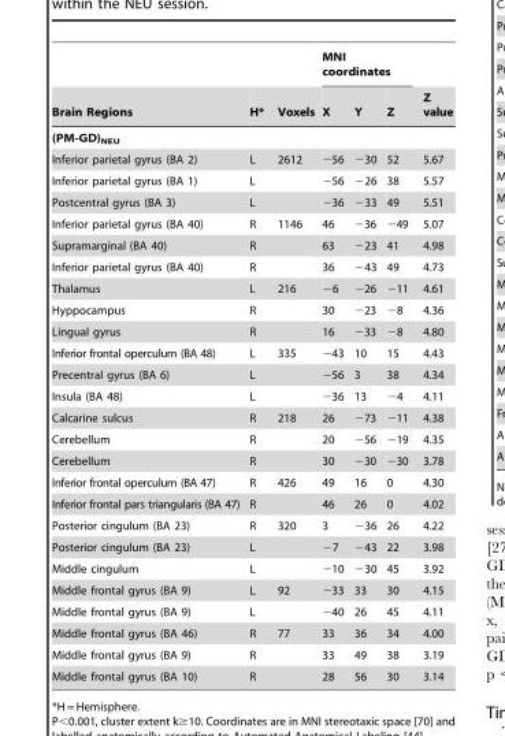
<table><thead><tr><td rowspan="2">Brain Regions</td><td rowspan="2">H*</td><td rowspan="2">Voxels</td><td colspan="3">MNI coordinates</td><td rowspan="2">Z value</td></tr><tr><td>X</td><td>Y</td><td>Z</td></tr></thead><tbody><tr><td colspan="7">(PM-GD)<sub>NEU</sub></td></tr><tr><td>Inferior parietal gyrus (BA 2)</td><td>L</td><td>2612</td><td>−56</td><td>−30</td><td>52</td><td>5.67</td></tr><tr><td>Inferior parietal gyrus (BA 1)</td><td>L</td><td></td><td>−56</td><td>−26</td><td>38</td><td>5.57</td></tr><tr><td>Postcentral gyrus (BA 3)</td><td>L</td><td></td><td>−36</td><td>−33</td><td>49</td><td>5.51</td></tr><tr><td>Inferior parietal gyrus (BA 40)</td><td>R</td><td>1146</td><td>46</td><td>−36</td><td>−49</td><td>5.07</td></tr><tr><td>Supramarginal (BA 40)</td><td>R</td><td></td><td>63</td><td>−23</td><td>41</td><td>4.98</td></tr><tr><td>Inferior parietal gyrus (BA 40)</td><td>R</td><td></td><td>36</td><td>−43</td><td>49</td><td>4.73</td></tr><tr><td>Thalamus</td><td>L</td><td>216</td><td>−6</td><td>−26</td><td>−11</td><td>4.61</td></tr><tr><td>Hyppocampus</td><td>R</td><td></td><td>30</td><td>−23</td><td>−8</td><td>4.36</td></tr><tr><td>Lingual gyrus</td><td>R</td><td></td><td>16</td><td>−33</td><td>−8</td><td>4.80</td></tr><tr><td>Inferior frontal operculum (BA 48)</td><td>L</td><td>335</td><td>−43</td><td>10</td><td>15</td><td>4.43</td></tr><tr><td>Precentral gyrus (BA 6)</td><td>L</td><td></td><td>−56</td><td>3</td><td>38</td><td>4.34</td></tr><tr><td>Insula (BA 48)</td><td>L</td><td></td><td>−36</td><td>13</td><td>−4</td><td>4.11</td></tr><tr><td>Calcarine sulcus</td><td>R</td><td>218</td><td>26</td><td>−73</td><td>−11</td><td>4.38</td></tr><tr><td>Cerebellum</td><td>R</td><td></td><td>20</td><td>−56</td><td>−19</td><td>4.35</td></tr><tr><td>Cerebellum</td><td>R</td><td></td><td>30</td><td>−30</td><td>−30</td><td>3.78</td></tr><tr><td>Inferior frontal operculum (BA 47)</td><td>R</td><td>426</td><td>49</td><td>16</td><td>0</td><td>4.30</td></tr><tr><td>Inferior frontal pars triangularis (BA 47)</td><td>R</td><td></td><td>46</td><td>26</td><td>0</td><td>4.02</td></tr><tr><td>Posterior cingulum (BA 23)</td><td>R</td><td>320</td><td>3</td><td>−36</td><td>26</td><td>4.22</td></tr><tr><td>Posterior cingulum (BA 23)</td><td>L</td><td></td><td>−7</td><td>−43</td><td>22</td><td>3.98</td></tr><tr><td>Middle cingulum</td><td>L</td><td></td><td>−10</td><td>−30</td><td>45</td><td>3.92</td></tr><tr><td>Middle frontal gyrus (BA 9)</td><td>L</td><td>92</td><td>−33</td><td>33</td><td>30</td><td>4.15</td></tr><tr><td>Middle frontal gyrus (BA 9)</td><td>L</td><td></td><td>−40</td><td>26</td><td>45</td><td>4.11</td></tr><tr><td>Middle frontal gyrus (BA 46)</td><td>R</td><td>77</td><td>33</td><td>36</td><td>34</td><td>4.00</td></tr><tr><td>Middle frontal gyrus (BA 9)</td><td>R</td><td></td><td>33</td><td>49</td><td>38</td><td>3.19</td></tr><tr><td>Middle frontal gyrus (BA 10)</td><td>R</td><td></td><td>28</td><td>56</td><td>30</td><td>3.14</td></tr></tbody></table>